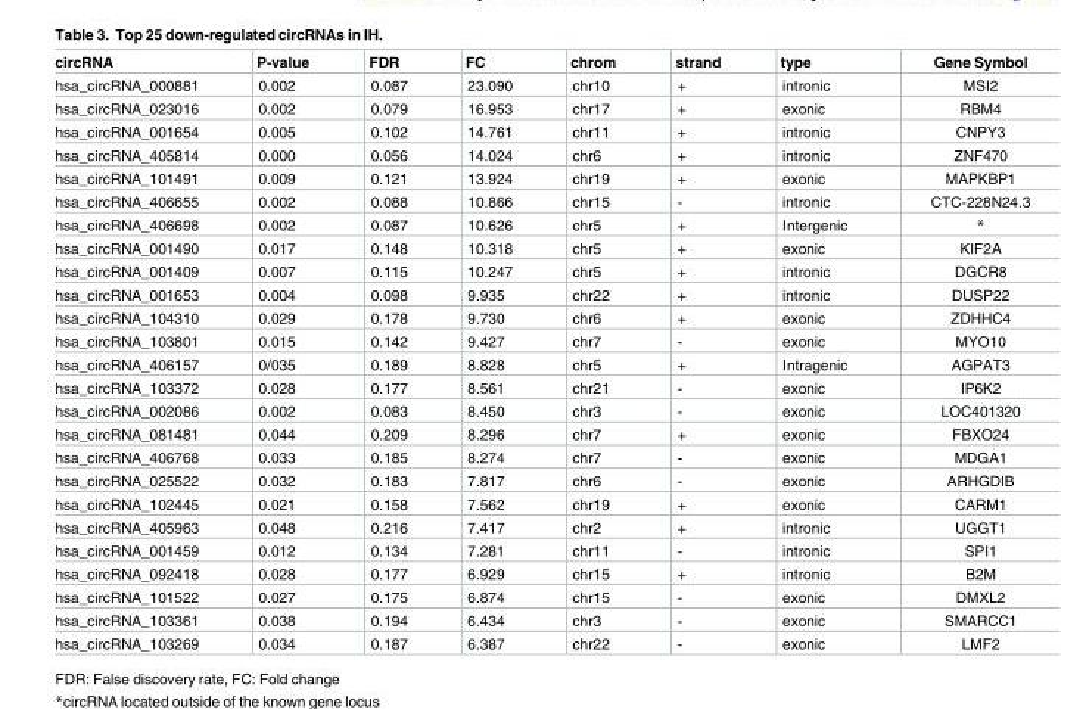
<table><thead><tr><td>circRNA</td><td>P-value</td><td>FDR</td><td>FC</td><td>chrom</td><td>strand</td><td>type</td><td>Gene Symbol</td></tr></thead><tbody><tr><td>hsa_circRNA_000881</td><td>0.002</td><td>0.087</td><td>23.090</td><td>chr10</td><td>+</td><td>intronic</td><td>MSI2</td></tr><tr><td>hsa_circRNA_023016</td><td>0.002</td><td>0.079</td><td>16.953</td><td>chr17</td><td>+</td><td>exonic</td><td>RBM4</td></tr><tr><td>hsa_circRNA_001654</td><td>0.005</td><td>0.102</td><td>14.761</td><td>chr11</td><td>+</td><td>intronic</td><td>CNPY3</td></tr><tr><td>hsa_circRNA_405814</td><td>0.000</td><td>0.056</td><td>14.024</td><td>chr6</td><td>+</td><td>intronic</td><td>ZNF470</td></tr><tr><td>hsa_circRNA_101491</td><td>0.009</td><td>0.121</td><td>13.924</td><td>chr19</td><td>+</td><td>exonic</td><td>MAPKBP1</td></tr><tr><td>hsa_circRNA_406655</td><td>0.002</td><td>0.088</td><td>10.866</td><td>chr15</td><td>-</td><td>intronic</td><td>CTC-228N24.3</td></tr><tr><td>hsa_circRNA_406698</td><td>0.002</td><td>0.087</td><td>10.626</td><td>chr5</td><td>+</td><td>Intergenic</td><td>*</td></tr><tr><td>hsa_circRNA_001490</td><td>0.017</td><td>0.148</td><td>10.318</td><td>chr5</td><td>+</td><td>exonic</td><td>KIF2A</td></tr><tr><td>hsa_circRNA_001409</td><td>0.007</td><td>0.115</td><td>10.247</td><td>chr5</td><td>+</td><td>intronic</td><td>DGCR8</td></tr><tr><td>hsa_circRNA_001653</td><td>0.004</td><td>0.098</td><td>9.935</td><td>chr22</td><td>+</td><td>intronic</td><td>DUSP22</td></tr><tr><td>hsa_circRNA_104310</td><td>0.029</td><td>0.178</td><td>9.730</td><td>chr6</td><td>+</td><td>exonic</td><td>ZDHHC4</td></tr><tr><td>hsa_circRNA_103801</td><td>0.015</td><td>0.142</td><td>9.427</td><td>chr7</td><td>-</td><td>exonic</td><td>MYO10</td></tr><tr><td>hsa_circRNA_406157</td><td>0/035</td><td>0.189</td><td>8.828</td><td>chr5</td><td>+</td><td>Intragenic</td><td>AGPAT3</td></tr><tr><td>hsa_circRNA_103372</td><td>0.028</td><td>0.177</td><td>8.561</td><td>chr21</td><td>-</td><td>exonic</td><td>IP6K2</td></tr><tr><td>hsa_circRNA_002086</td><td>0.002</td><td>0.083</td><td>8.450</td><td>chr3</td><td>-</td><td>exonic</td><td>LOC401320</td></tr><tr><td>hsa_circRNA_081481</td><td>0.044</td><td>0.209</td><td>8.296</td><td>chr7</td><td>+</td><td>exonic</td><td>FBXO24</td></tr><tr><td>hsa_circRNA_406768</td><td>0.033</td><td>0.185</td><td>8.274</td><td>chr7</td><td>-</td><td>exonic</td><td>MDGA1</td></tr><tr><td>hsa_circRNA_025522</td><td>0.032</td><td>0.183</td><td>7.817</td><td>chr6</td><td>-</td><td>exonic</td><td>ARHGDIB</td></tr><tr><td>hsa_circRNA_102445</td><td>0.021</td><td>0.158</td><td>7.562</td><td>chr19</td><td>+</td><td>exonic</td><td>CARM1</td></tr><tr><td>hsa_circRNA_405963</td><td>0.048</td><td>0.216</td><td>7.417</td><td>chr2</td><td>+</td><td>intronic</td><td>UGGT1</td></tr><tr><td>hsa_circRNA_001459</td><td>0.012</td><td>0.134</td><td>7.281</td><td>chr11</td><td>-</td><td>intronic</td><td>SPI1</td></tr><tr><td>hsa_circRNA_092418</td><td>0.028</td><td>0.177</td><td>6.929</td><td>chr15</td><td>+</td><td>intronic</td><td>B2M</td></tr><tr><td>hsa_circRNA_101522</td><td>0.027</td><td>0.175</td><td>6.874</td><td>chr15</td><td>-</td><td>exonic</td><td>DMXL2</td></tr><tr><td>hsa_circRNA_103361</td><td>0.038</td><td>0.194</td><td>6.434</td><td>chr3</td><td>-</td><td>exonic</td><td>SMARCC1</td></tr><tr><td>hsa_circRNA_103269</td><td>0.034</td><td>0.187</td><td>6.387</td><td>chr22</td><td>-</td><td>exonic</td><td>LMF2</td></tr></tbody></table>